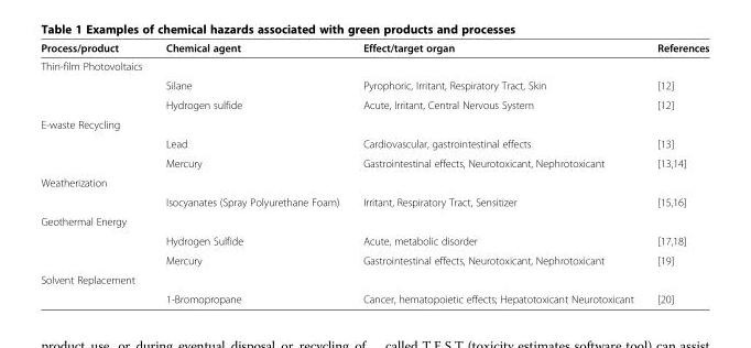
<table><thead><tr><td>Process/product</td><td>Chemical agent</td><td>Effect/target organ</td><td>References</td></tr></thead><tbody><tr><td colspan="4">Thin-film Photovoltaics</td></tr><tr><td></td><td>Silane</td><td>Pyrophoric, Irritant, Respiratory Tract, Skin</td><td>[12]</td></tr><tr><td></td><td>Hydrogen sulfide</td><td>Acute, Irritant, Central Nervous System</td><td>[12]</td></tr><tr><td colspan="4">E-waste Recycling</td></tr><tr><td></td><td>Lead</td><td>Cardiovascular, gastrointestinal effects</td><td>[13]</td></tr><tr><td></td><td>Mercury</td><td>Gastrointestinal effects, Neurotoxicant, Nephrotoxicant</td><td>[13,14]</td></tr><tr><td colspan="4">Weatherization</td></tr><tr><td></td><td>Isocyanates (Spray Polyurethane Foam)</td><td>Irritant, Respiratory Tract, Sensitizer</td><td>[15,16]</td></tr><tr><td colspan="4">Geothermal Energy</td></tr><tr><td></td><td>Hydrogen Sulfide</td><td>Acute, metabolic disorder</td><td>[17,18]</td></tr><tr><td></td><td>Mercury</td><td>Gastrointestinal effects, Neurotoxicant, Nephrotoxicant</td><td>[19]</td></tr><tr><td colspan="4">Solvent Replacement</td></tr><tr><td></td><td>1-Bromopropane</td><td>Cancer, hematopoietic effects; Hepatotoxicant Neurotoxicant</td><td>[20]</td></tr></tbody></table>